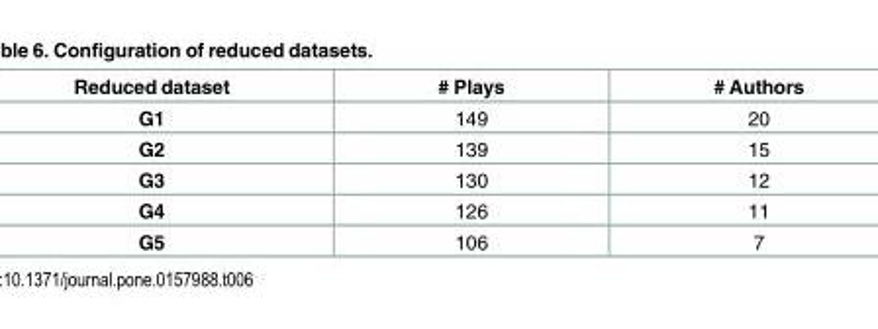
<table><thead><tr><td>Reduced dataset</td><td># Plays</td><td># Authors</td></tr></thead><tbody><tr><td>G1</td><td>149</td><td>20</td></tr><tr><td>G2</td><td>139</td><td>15</td></tr><tr><td>G3</td><td>130</td><td>12</td></tr><tr><td>G4</td><td>126</td><td>11</td></tr><tr><td>G5</td><td>106</td><td>7</td></tr></tbody></table>